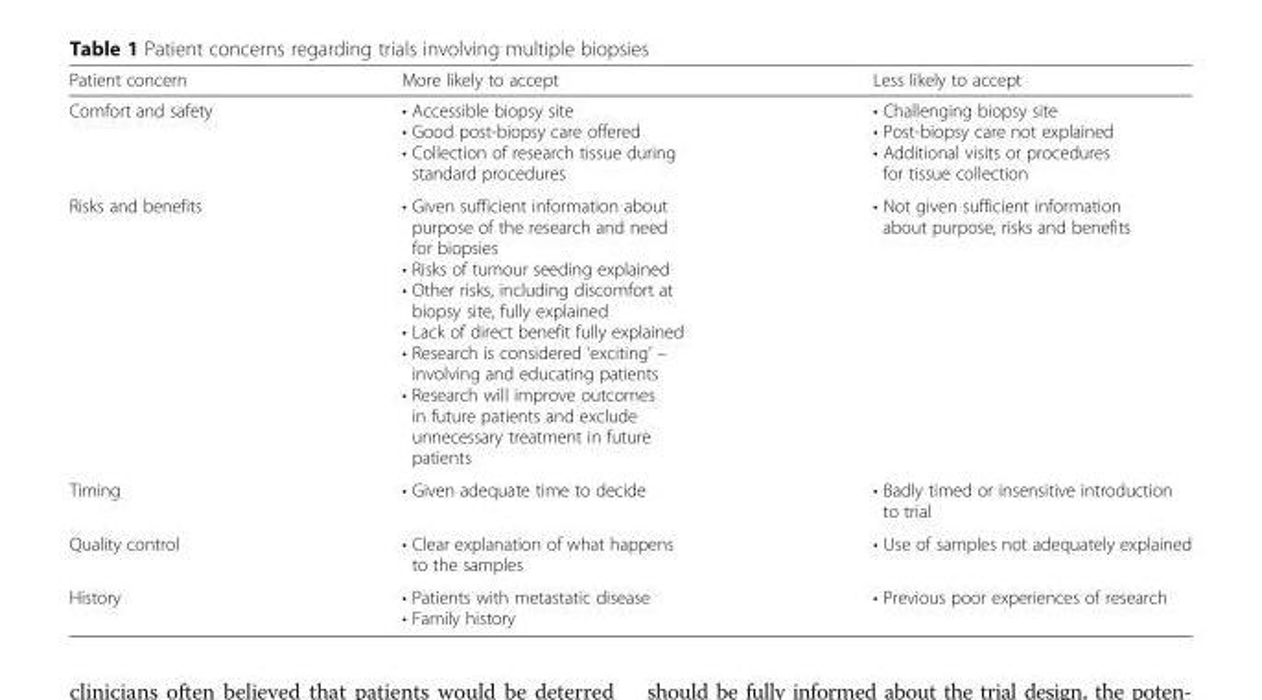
<table><thead><tr><td>Patient concern</td><td>More likely to accept</td><td>Less likely to accept</td></tr></thead><tbody><tr><td>Comfort and safety</td><td>• Accessible biopsy site • Good post-biopsy care offered • Collection of research tissue during standard procedures</td><td>• Challenging biopsy site • Post-biopsy care not explained • Additional visits or procedures for tissue collection</td></tr><tr><td>Risks and benefits</td><td>• Given sufficient information about purpose of the research and need for biopsies • Risks of tumour seeding explained • Other risks, including discomfort at biopsy site, fully explained • Lack of direct benefit fully explained • Research is considered ‘exciting’ – involving and educating patients • Research will improve outcomes in future patients and exclude unnecessary treatment in future patients</td><td>• Not given sufficient information about purpose, risks and benefits</td></tr><tr><td>Timing</td><td>• Given adequate time to decide</td><td>• Badly timed or insensitive introduction to trial</td></tr><tr><td>Quality control</td><td>• Clear explanation of what happens to the samples</td><td>• Use of samples not adequately explained</td></tr><tr><td>History</td><td>• Patients with metastatic disease • Family history</td><td>• Previous poor experiences of research</td></tr></tbody></table>